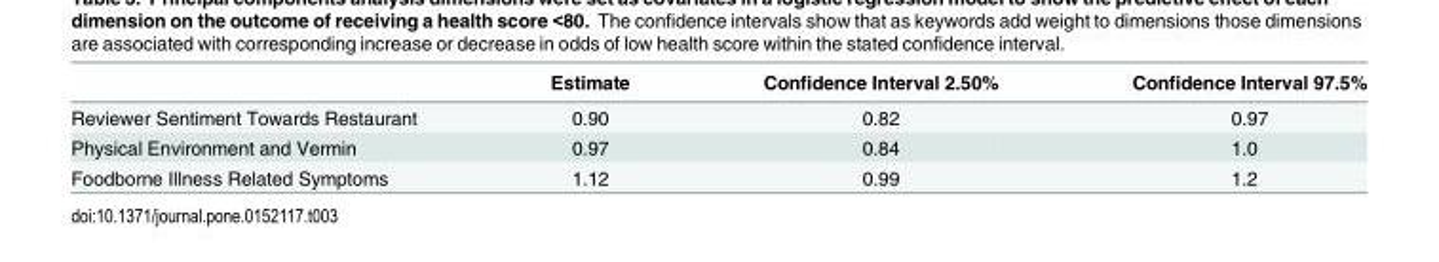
<table><thead><tr><td></td><td>Estimate</td><td>Confidence Interval 2.50%</td><td>Confidence Interval 97.5%</td></tr></thead><tbody><tr><td>Reviewer Sentiment Towards Restaurant</td><td>0.90</td><td>0.82</td><td>0.97</td></tr><tr><td>Physical Environment and Vermin</td><td>0.97</td><td>0.84</td><td>1.0</td></tr><tr><td>Foodborne Illness Related Symptoms</td><td>1.12</td><td>0.99</td><td>1.2</td></tr></tbody></table>